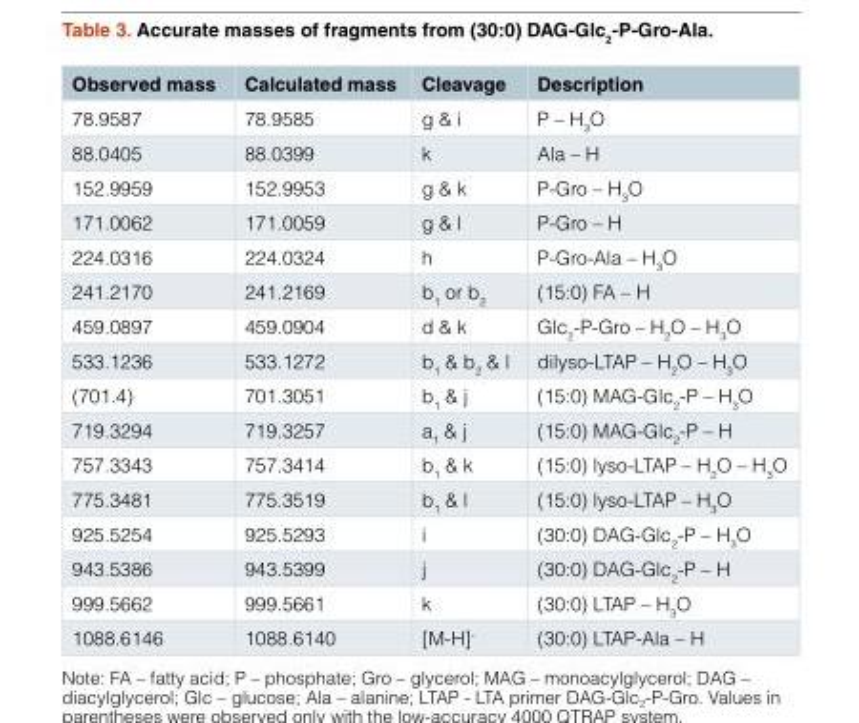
<table><thead><tr><td>Observed mass</td><td>Calculated mass</td><td>Cleavage</td><td>Description</td></tr></thead><tbody><tr><td>78.9587</td><td>78.9585</td><td>g &amp; i</td><td>P – H<sub>3</sub>O</td></tr><tr><td>88.0405</td><td>88.0399</td><td>k</td><td>Ala – H</td></tr><tr><td>152.9959</td><td>152.9953</td><td>g &amp; k</td><td>P-Gro – H<sub>3</sub>O</td></tr><tr><td>171.0062</td><td>171.0059</td><td>g &amp; l</td><td>P-Gro – H</td></tr><tr><td>224.0316</td><td>224.0324</td><td>h</td><td>P-Gro-Ala – H<sub>3</sub>O</td></tr><tr><td>241.2170</td><td>241.2169</td><td>b<sub>1</sub> or b<sub>2</sub></td><td>(15:0) FA – H</td></tr><tr><td>459.0897</td><td>459.0904</td><td>d &amp; k</td><td>Glc<sub>2</sub>-P-Gro – H<sub>2</sub>O – H<sub>3</sub>O</td></tr><tr><td>533.1236</td><td>533.1272</td><td>b<sub>1</sub> &amp; b<sub>2</sub> &amp; l</td><td>dilyso-LTAP – H<sub>2</sub>O – H<sub>3</sub>O</td></tr><tr><td>(701.4)</td><td>701.3051</td><td>b<sub>1</sub> &amp; j</td><td>(15:0) MAG-Glc<sub>2</sub>-P – H<sub>3</sub>O</td></tr><tr><td>719.3294</td><td>719.3257</td><td>a<sub>1</sub> &amp; j</td><td>(15:0) MAG-Glc<sub>2</sub>-P – H</td></tr><tr><td>757.3343</td><td>757.3414</td><td>b<sub>1</sub> &amp; k</td><td>(15:0) lyso-LTAP – H<sub>2</sub>O – H<sub>3</sub>O</td></tr><tr><td>775.3481</td><td>775.3519</td><td>b<sub>1</sub> &amp; l</td><td>(15:0) lyso-LTAP – H<sub>3</sub>O</td></tr><tr><td>925.5254</td><td>925.5293</td><td>i</td><td>(30:0) DAG-Glc<sub>2</sub>-P – H<sub>3</sub>O</td></tr><tr><td>943.5386</td><td>943.5399</td><td>j</td><td>(30:0) DAG-Glc<sub>2</sub>-P – H</td></tr><tr><td>999.5662</td><td>999.5661</td><td>k</td><td>(30:0) LTAP – H<sub>3</sub>O</td></tr><tr><td>1088.6146</td><td>1088.6140</td><td>[M-H]<sup>-</sup></td><td>(30:0) LTAP-Ala – H</td></tr></tbody></table>